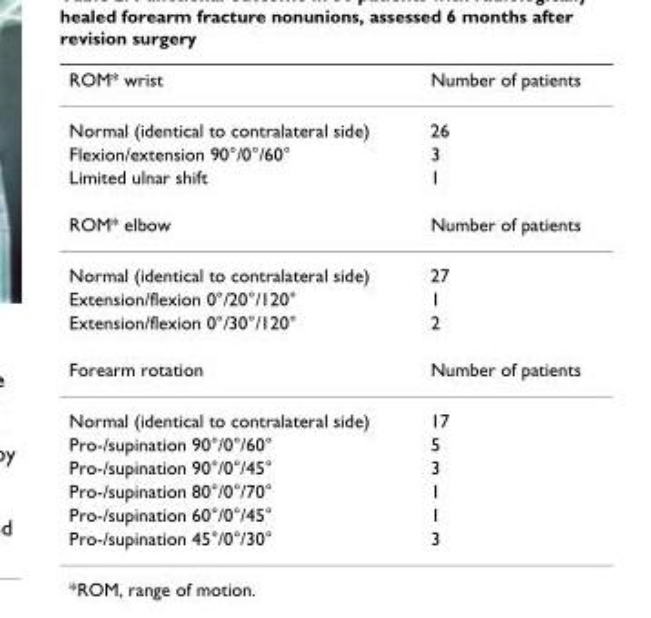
<table><thead><tr><td>ROM* wrist</td><td>Number of patients</td></tr></thead><tbody><tr><td>Normal (identical to contralateral side)</td><td>26</td></tr><tr><td>Flexion/extension 90°/0°/60°</td><td>3</td></tr><tr><td>Limited ulnar shift</td><td>1</td></tr><tr><td>ROM* elbow</td><td>Number of patients</td></tr><tr><td>Normal (identical to contralateral side)</td><td>27</td></tr><tr><td>Extension/flexion 0°/20°/120°</td><td>1</td></tr><tr><td>Extension/flexion 0°/30°/120°</td><td>2</td></tr><tr><td>Forearm rotation</td><td>Number of patients</td></tr><tr><td>Normal (identical to contralateral side)</td><td>17</td></tr><tr><td>Pro-/supination 90°/0°/60°</td><td>5</td></tr><tr><td>Pro-/supination 90°/0°/45°</td><td>3</td></tr><tr><td>Pro-/supination 80°/0°/70°</td><td>1</td></tr><tr><td>Pro-/supination 60°/0°/45°</td><td>1</td></tr><tr><td>Pro-/supination 45°/0°/30°</td><td>3</td></tr></tbody></table>